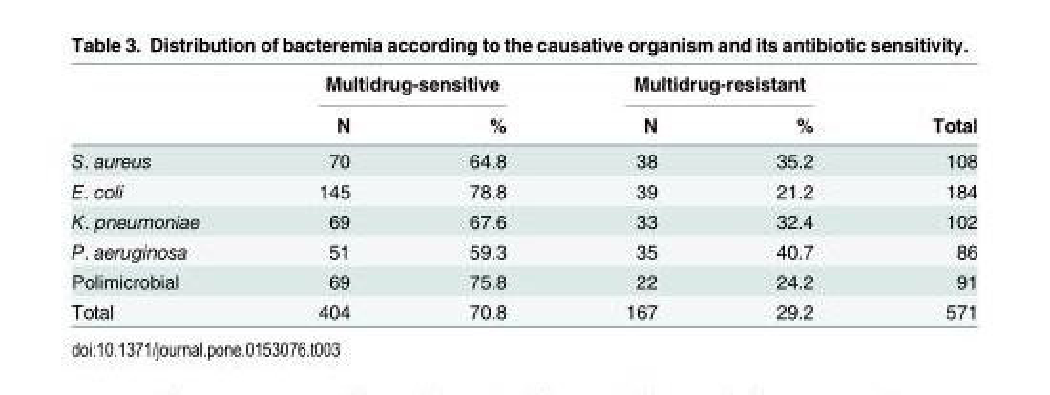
<table><thead><tr><td rowspan="2"></td><td colspan="2">Multidrug-sensitive</td><td colspan="2">Multidrug-resistant</td><td rowspan="2">Total</td></tr><tr><td>N</td><td>%</td><td>N</td><td>%</td></tr></thead><tbody><tr><td>S. aureus</td><td>70</td><td>64.8</td><td>38</td><td>35.2</td><td>108</td></tr><tr><td>E. coli</td><td>145</td><td>78.8</td><td>39</td><td>21.2</td><td>184</td></tr><tr><td>K. pneumoniae</td><td>69</td><td>67.6</td><td>33</td><td>32.4</td><td>102</td></tr><tr><td>P. aeruginosa</td><td>51</td><td>59.3</td><td>35</td><td>40.7</td><td>86</td></tr><tr><td>Polimicrobial</td><td>69</td><td>75.8</td><td>22</td><td>24.2</td><td>91</td></tr><tr><td>Total</td><td>404</td><td>70.8</td><td>167</td><td>29.2</td><td>571</td></tr></tbody></table>